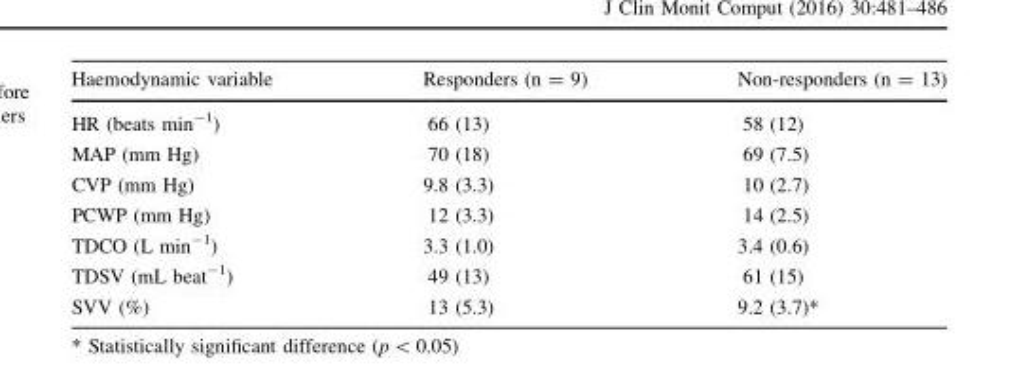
<table><thead><tr><td>Haemodynamic variable</td><td>Responders (n = 9)</td><td>Non-responders (n = 13)</td></tr></thead><tbody><tr><td>HR (beats min<sup>-1</sup>)</td><td>66 (13)</td><td>58 (12)</td></tr><tr><td>MAP (mm Hg)</td><td>70 (18)</td><td>69 (7.5)</td></tr><tr><td>CVP (mm Hg)</td><td>9.8 (3.3)</td><td>10 (2.7)</td></tr><tr><td>PCWP (mm Hg)</td><td>12 (3.3)</td><td>14 (2.5)</td></tr><tr><td>TDCO (L min<sup>-1</sup>)</td><td>3.3 (1.0)</td><td>3.4 (0.6)</td></tr><tr><td>TDSV (mL beat<sup>-1</sup>)</td><td>49 (13)</td><td>61 (15)</td></tr><tr><td>SVV (%)</td><td>13 (5.3)</td><td>9.2 (3.7)*</td></tr></tbody></table>